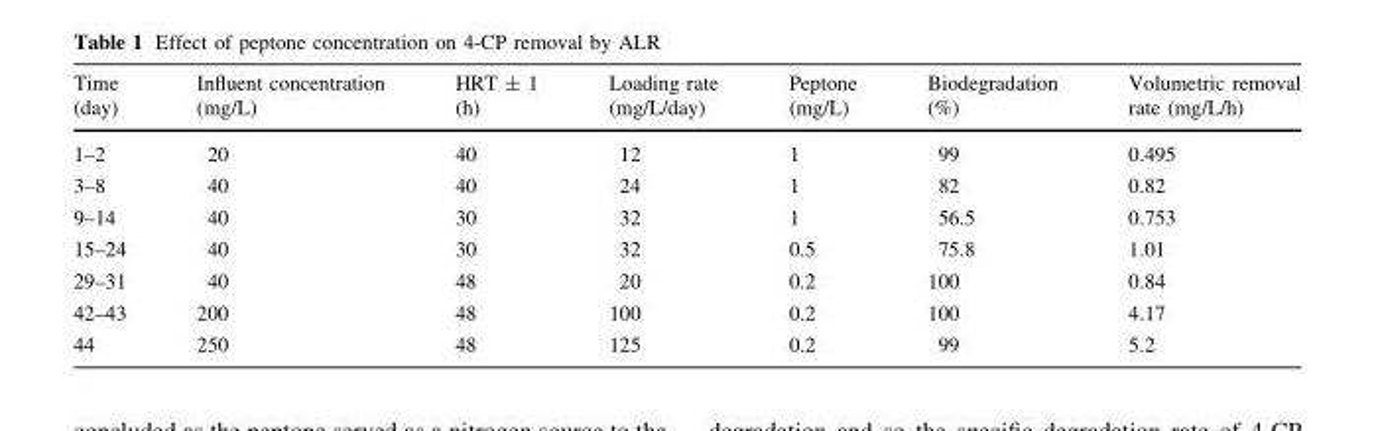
<table><thead><tr><td>Time (day)</td><td>Influent concentration (mg/L)</td><td>HRT ± 1 (h)</td><td>Loading rate (mg/L/day)</td><td>Peptone (mg/L)</td><td>Biodegradation (%)</td><td>Volumetric removal rate (mg/L/h)</td></tr></thead><tbody><tr><td>1–2</td><td>20</td><td>40</td><td>12</td><td>1</td><td>99</td><td>0.495</td></tr><tr><td>3–8</td><td>40</td><td>40</td><td>24</td><td>1</td><td>82</td><td>0.82</td></tr><tr><td>9–14</td><td>40</td><td>30</td><td>32</td><td>1</td><td>56.5</td><td>0.753</td></tr><tr><td>15–24</td><td>40</td><td>30</td><td>32</td><td>0.5</td><td>75.8</td><td>1.01</td></tr><tr><td>29–31</td><td>40</td><td>48</td><td>20</td><td>0.2</td><td>100</td><td>0.84</td></tr><tr><td>42–43</td><td>200</td><td>48</td><td>100</td><td>0.2</td><td>100</td><td>4.17</td></tr><tr><td>44</td><td>250</td><td>48</td><td>125</td><td>0.2</td><td>99</td><td>5.2</td></tr></tbody></table>